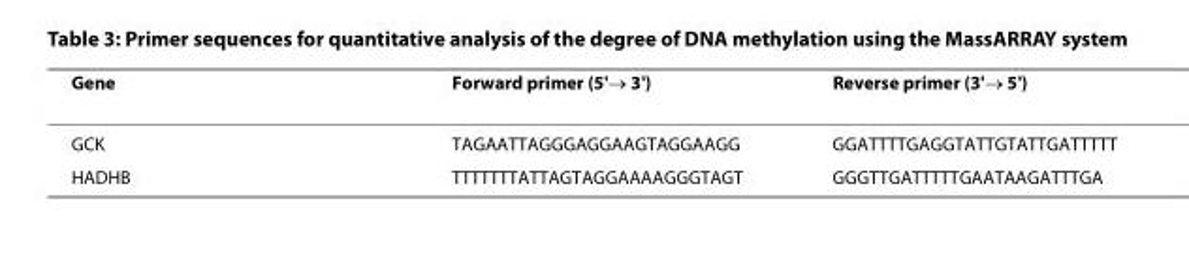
<table><thead><tr><td>Gene</td><td>Forward primer (5&#x27;→ 3&#x27;)</td><td>Reverse primer (3&#x27;→ 5&#x27;)</td></tr></thead><tbody><tr><td>GCK</td><td>TAGAATTAGGGAGGAAGTAGGAAGG</td><td>GGATTTTGAGGTATTGTATTGATTTTT</td></tr><tr><td>HADHB</td><td>TTTTTTTATTAGTAGGAAAAGGGTAGT</td><td>GGGTTGATTTTTGAATAAGATTTGA</td></tr></tbody></table>